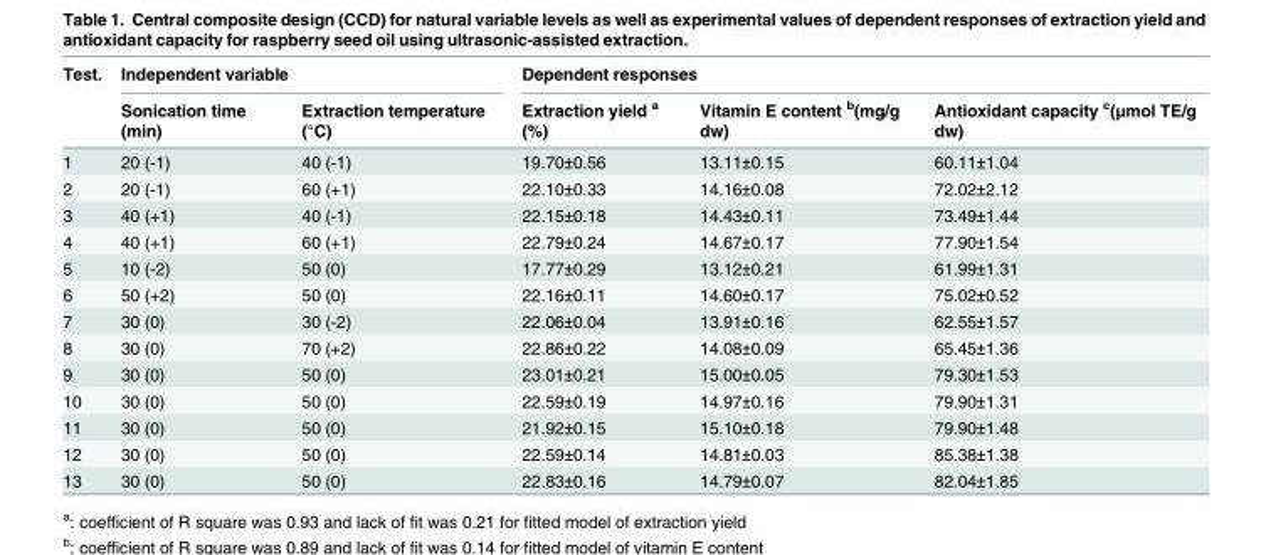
<table><thead><tr><td rowspan="2">Test.</td><td colspan="2">Independent variable</td><td colspan="3">Dependent responses</td></tr><tr><td>Sonication time (min)</td><td>Extraction temperature (°C)</td><td>Extraction yield <sup>a</sup> (%)</td><td>Vitamin E content <sup>b</sup>(mg/g dw)</td><td>Antioxidant capacity <sup>c</sup>(μmol TE/g dw)</td></tr></thead><tbody><tr><td>1</td><td>20 (-1)</td><td>40 (-1)</td><td>19.70±0.56</td><td>13.11±0.15</td><td>60.11±1.04</td></tr><tr><td>2</td><td>20 (-1)</td><td>60 (+1)</td><td>22.10±0.33</td><td>14.16±0.08</td><td>72.02±2.12</td></tr><tr><td>3</td><td>40 (+1)</td><td>40 (-1)</td><td>22.15±0.18</td><td>14.43±0.11</td><td>73.49±1.44</td></tr><tr><td>4</td><td>40 (+1)</td><td>60 (+1)</td><td>22.79±0.24</td><td>14.67±0.17</td><td>77.90±1.54</td></tr><tr><td>5</td><td>10 (-2)</td><td>50 (0)</td><td>17.77±0.29</td><td>13.12±0.21</td><td>61.99±1.31</td></tr><tr><td>6</td><td>50 (+2)</td><td>50 (0)</td><td>22.16±0.11</td><td>14.60±0.17</td><td>75.02±0.52</td></tr><tr><td>7</td><td>30 (0)</td><td>30 (-2)</td><td>22.06±0.04</td><td>13.91±0.16</td><td>62.55±1.57</td></tr><tr><td>8</td><td>30 (0)</td><td>70 (+2)</td><td>22.86±0.22</td><td>14.08±0.09</td><td>65.45±1.36</td></tr><tr><td>9</td><td>30 (0)</td><td>50 (0)</td><td>23.01±0.21</td><td>15.00±0.05</td><td>79.30±1.53</td></tr><tr><td>10</td><td>30 (0)</td><td>50 (0)</td><td>22.59±0.19</td><td>14.97±0.16</td><td>79.90±1.31</td></tr><tr><td>11</td><td>30 (0)</td><td>50 (0)</td><td>21.92±0.15</td><td>15.10±0.18</td><td>79.90±1.48</td></tr><tr><td>12</td><td>30 (0)</td><td>50 (0)</td><td>22.59±0.14</td><td>14.81±0.03</td><td>85.38±1.38</td></tr><tr><td>13</td><td>30 (0)</td><td>50 (0)</td><td>22.83±0.16</td><td>14.79±0.07</td><td>82.04±1.85</td></tr></tbody></table>